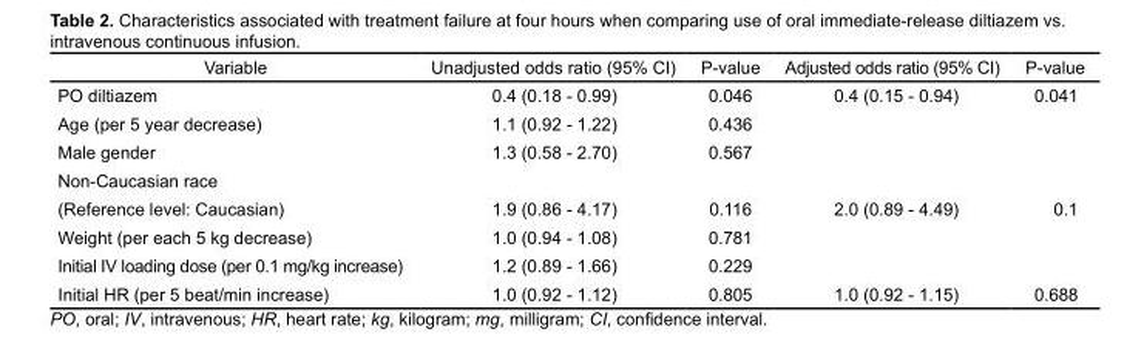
<table><thead><tr><td>Variable</td><td>Unadjusted odds ratio (95% CI)</td><td>P-value</td><td>Adjusted odds ratio (95% CI)</td><td>P-value</td></tr></thead><tbody><tr><td>PO diltiazem</td><td>0.4 (0.18 - 0.99)</td><td>0.046</td><td>0.4 (0.15 - 0.94)</td><td>0.041</td></tr><tr><td>Age (per 5 year decrease)</td><td>1.1 (0.92 - 1.22)</td><td>0.436</td><td></td><td></td></tr><tr><td>Male gender</td><td>1.3 (0.58 - 2.70)</td><td>0.567</td><td></td><td></td></tr><tr><td>Non-Caucasian race (Reference level: Caucasian)</td><td>1.9 (0.86 - 4.17)</td><td>0.116</td><td>2.0 (0.89 - 4.49)</td><td>0.1</td></tr><tr><td>Weight (per each 5 kg decrease)</td><td>1.0 (0.94 - 1.08)</td><td>0.781</td><td></td><td></td></tr><tr><td>Initial IV loading dose (per 0.1 mg/kg increase)</td><td>1.2 (0.89 - 1.66)</td><td>0.229</td><td></td><td></td></tr><tr><td>Initial HR (per 5 beat/min increase)</td><td>1.0 (0.92 - 1.12)</td><td>0.805</td><td>1.0 (0.92 - 1.15)</td><td>0.688</td></tr></tbody></table>